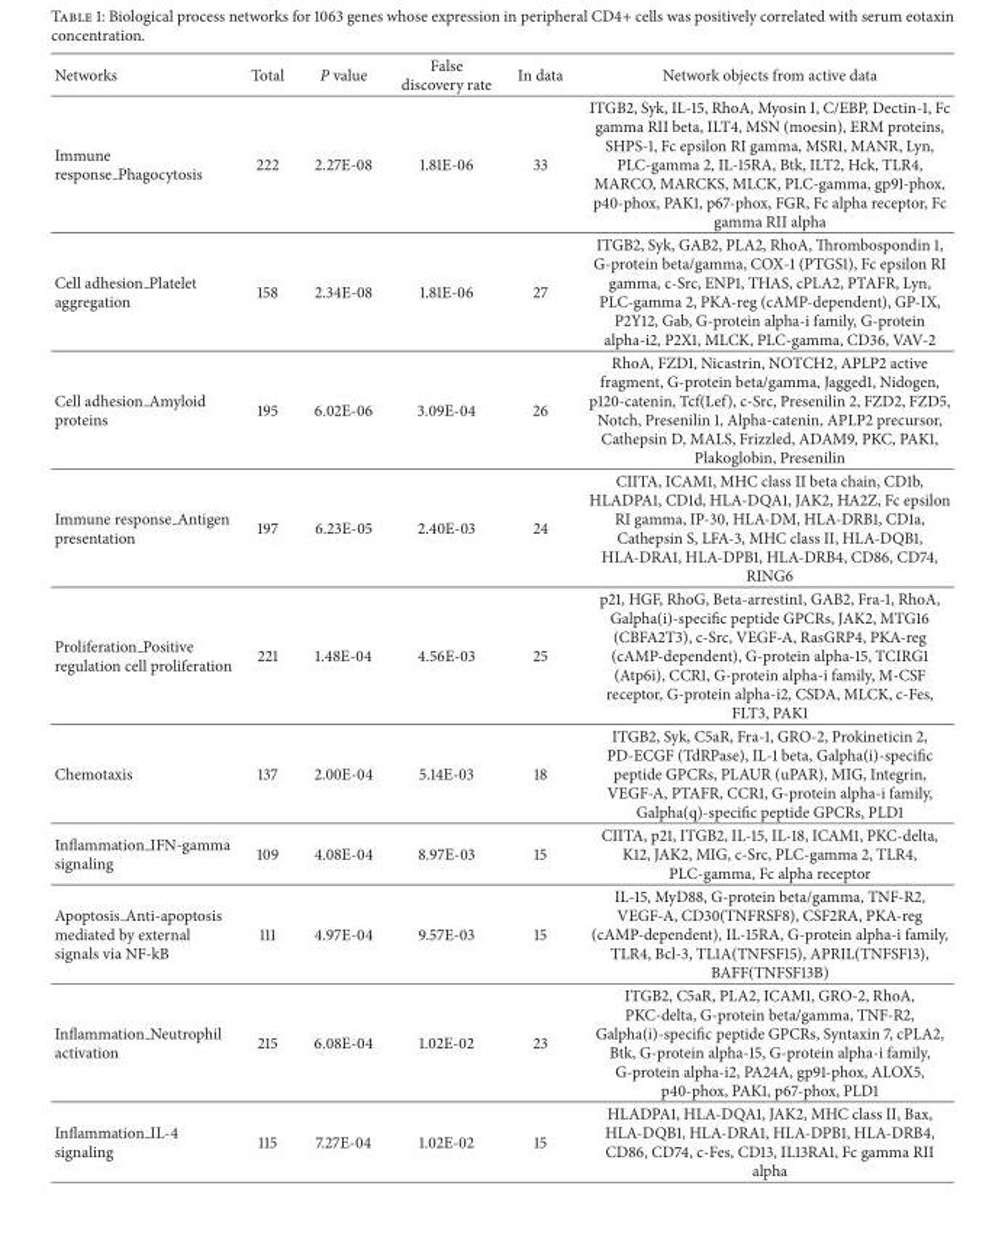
<table><thead><tr><td>Networks</td><td>Total</td><td>P value</td><td>False discovery rate</td><td>In data</td><td>Network objects from active data</td></tr></thead><tbody><tr><td>Immune response Phagocytosis</td><td>222</td><td>2.27E-08</td><td>1.81E-06</td><td>33</td><td>ITGB2, Syk, IL-15, RhoA, Myosin I, C/EBP, Dectin-1, Fc gamma RII beta, ILT4, MSN (moesin), ERM proteins, SHPS-1, Fc epsilon RI gamma, MSR1, MANR, Lyn, PLC-gamma 2, IL-15RA, Btk, ILT2, Hck, TLR4, MARCO, MARCKS, MLCK, PLC-gamma, gp91-phox, p40-phox, PAK1, p67-phox, FGR, Fc alpha receptor, Fc gamma RII alpha</td></tr><tr><td>Cell adhesion Platelet aggregation</td><td>158</td><td>2.34E-08</td><td>1.81E-06</td><td>27</td><td>ITGB2, Syk, GAB2, PLA2, RhoA, Thrombospondin 1, G-protein beta/gamma, COX-1 (PTGS1), Fc epsilon RI gamma, c-Src, ENP1, THAS, cPLA2, PTAFR, Lyn, PLC-gamma 2, PKA-reg (cAMP-dependent), GP-IX, P2Y12, Gab, G-protein alpha-i family, G-protein alpha-i2, P2X1, MLCK, PLC-gamma, CD36, VAV-2</td></tr><tr><td>Cell adhesion Amyloid proteins</td><td>195</td><td>6.02E-06</td><td>3.09E-04</td><td>26</td><td>RhoA, FZD1, Nicastrin, NOTCH2, APLP2 active fragment, G-protein beta/gamma, Jagged1, Nidogen, p120-catenin, Tcf(Lef), c-Src, Presenilin 2, FZD2, FZD5, Notch, Presenilin 1, Alpha-catenin, APLP2 precursor, Cathepsin D, MALS, Frizzled, ADAM9, PKC, PAK1, Plakoglobin, Presenilin</td></tr><tr><td>Immune response Antigen presentation</td><td>197</td><td>6.23E-05</td><td>2.40E-03</td><td>24</td><td>CIITA, ICAM1, MHC class II beta chain, CD1b, HLADPA1, CD1d, HLA-DQA1, JAK2, HA2Z, Fc epsilon RI gamma, IP-30, HLA-DM, HLA-DRB1, CD1a, Cathepsin S, LFA-3, MHC class II, HLA-DQB1, HLA-DRA1, HLA-DPB1, HLA-DRB4, CD86, CD74, RING6</td></tr><tr><td>Proliferation Positive regulation cell proliferation</td><td>221</td><td>1.48E-04</td><td>4.56E-03</td><td>25</td><td>p21, HGF, RhoG, Beta-arrestin1, GAB2, Fra-1, RhoA, Galpha(i)-specific peptide GPCRs, JAK2, MTG16 (CBFA2T3), c-Src, VEGF-A, RasGRP4, PKA-reg (cAMP-dependent), G-protein alpha-15, TCIRG1 (Atp6i), CCR1, G-protein alpha-i family, M-CSF receptor, G-protein alpha-i2, CSDA, MLCK, c-Fes, FLT3, PAK1</td></tr><tr><td>Chemotaxis</td><td>137</td><td>2.00E-04</td><td>5.14E-03</td><td>18</td><td>ITGB2, Syk, C5aR, Fra-1, GRO-2, Prokineticin 2, PD-ECGF (TdRPase), IL-1 beta, Galpha(i)-specific peptide GPCRs, PLAUR (uPAR), MIG, Integrin, VEGF-A, PTAFR, CCR1, G-protein alpha-i family, Galpha(q)-specific peptide GPCRs, PLD1</td></tr><tr><td>Inflammation IFN-gamma signaling</td><td>109</td><td>4.08E-04</td><td>8.97E-03</td><td>15</td><td>CIITA, p21, ITGB2, IL-15, IL-18, ICAM1, PKC-delta, K12, JAK2, MIG, c-Src, PLC-gamma 2, TLR4, PLC-gamma, Fc alpha receptor</td></tr><tr><td>Apoptosis Anti-apoptosis mediated by external signals via NF-kB</td><td>111</td><td>4.97E-04</td><td>9.57E-03</td><td>15</td><td>IL-15, MyD88, G-protein beta/gamma, TNF-R2, VEGF-A, CD30(TNFRSF8), CSF2RA, PKA-reg (cAMP-dependent), IL-15RA, G-protein alpha-i family, TLR4, Bcl-3, TL1A(TNFSF15), APRIL(TNFSF13), BAFF(TNFSF13B)</td></tr><tr><td>Inflammation Neutrophil activation</td><td>215</td><td>6.08E-04</td><td>1.02E-02</td><td>23</td><td>ITGB2, C5aR, PLA2, ICAM1, GRO-2, RhoA, PKC-delta, G-protein beta/gamma, TNF-R2, Galpha(i)-specific peptide GPCRs, Syntaxin 7, cPLA2, Btk, G-protein alpha-15, G-protein alpha-i family, G-protein alpha-i2, PA24A, gp91-phox, ALOX5, p40-phox, PAK1, p67-phox, PLD1</td></tr><tr><td>Inflammation IL-4 signaling</td><td>115</td><td>7.27E-04</td><td>1.02E-02</td><td>15</td><td>HLADPA1, HLA-DQA1, JAK2, MHC class II, Bax, HLA-DQB1, HLA-DRA1, HLA-DPB1, HLA-DRB4, CD86, CD74, c-Fes, CD13, IL13RA1, Fc gamma RII alpha</td></tr></tbody></table>